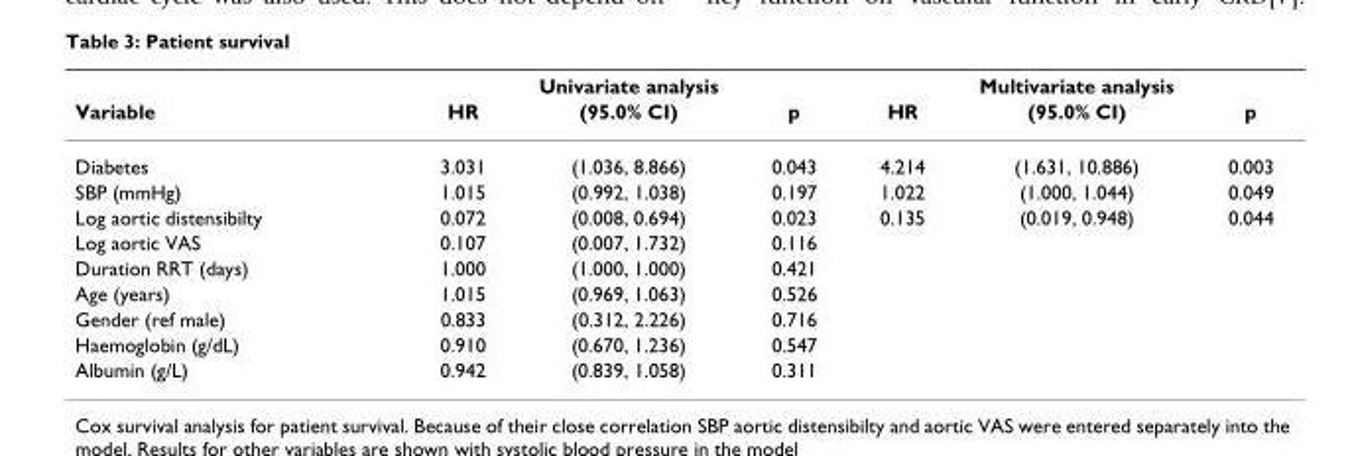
<table><thead><tr><td rowspan="2">Variable</td><td colspan="3">Univariate analysis</td><td colspan="3">Multivariate analysis</td></tr><tr><td>HR</td><td>(95.0% CI)</td><td>p</td><td>HR</td><td>(95.0% CI)</td><td>p</td></tr></thead><tbody><tr><td>Diabetes</td><td>3.031</td><td>(1.036, 8.866)</td><td>0.043</td><td>4.214</td><td>(1.631, 10.886)</td><td>0.003</td></tr><tr><td>SBP (mmHg)</td><td>1.015</td><td>(0.992, 1.038)</td><td>0.197</td><td>1.022</td><td>(1.000, 1.044)</td><td>0.049</td></tr><tr><td>Log aortic distensibilty</td><td>0.072</td><td>(0.008, 0.694)</td><td>0.023</td><td>0.135</td><td>(0.019, 0.948)</td><td>0.044</td></tr><tr><td>Log aortic VAS</td><td>0.107</td><td>(0.007, 1.732)</td><td>0.116</td><td></td><td></td><td></td></tr><tr><td>Duration RRT (days)</td><td>1.000</td><td>(1.000, 1.000)</td><td>0.421</td><td></td><td></td><td></td></tr><tr><td>Age (years)</td><td>1.015</td><td>(0.969, 1.063)</td><td>0.526</td><td></td><td></td><td></td></tr><tr><td>Gender (ref male)</td><td>0.833</td><td>(0.312, 2.226)</td><td>0.716</td><td></td><td></td><td></td></tr><tr><td>Haemoglobin (g/dL)</td><td>0.910</td><td>(0.670, 1.236)</td><td>0.547</td><td></td><td></td><td></td></tr><tr><td>Albumin (g/L)</td><td>0.942</td><td>(0.839, 1.058)</td><td>0.311</td><td></td><td></td><td></td></tr></tbody></table>